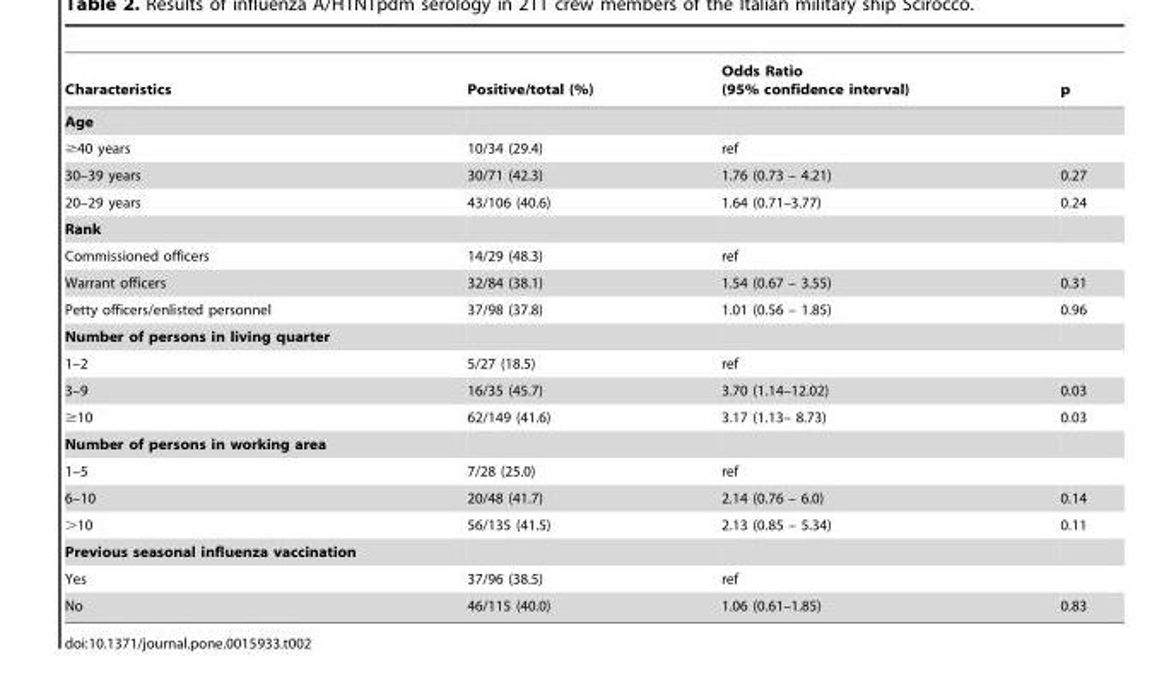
<table><thead><tr><td>Characteristics</td><td>Positive/total (%)</td><td>Odds Ratio (95% confidence interval)</td><td>p</td></tr></thead><tbody><tr><td colspan="4">Age</td></tr><tr><td>≥40 years</td><td>10/34 (29.4)</td><td>ref</td><td></td></tr><tr><td>30–39 years</td><td>30/71 (42.3)</td><td>1.76 (0.73 – 4.21)</td><td>0.27</td></tr><tr><td>20–29 years</td><td>43/106 (40.6)</td><td>1.64 (0.71–3.77)</td><td>0.24</td></tr><tr><td colspan="4">Rank</td></tr><tr><td>Commissioned officers</td><td>14/29 (48.3)</td><td>ref</td><td></td></tr><tr><td>Warrant officers</td><td>32/84 (38.1)</td><td>1.54 (0.67 – 3.55)</td><td>0.31</td></tr><tr><td>Petty officers/enlisted personnel</td><td>37/98 (37.8)</td><td>1.01 (0.56 – 1.85)</td><td>0.96</td></tr><tr><td colspan="4">Number of persons in living quarter</td></tr><tr><td>1–2</td><td>5/27 (18.5)</td><td>ref</td><td></td></tr><tr><td>3–9</td><td>16/35 (45.7)</td><td>3.70 (1.14–12.02)</td><td>0.03</td></tr><tr><td>≥10</td><td>62/149 (41.6)</td><td>3.17 (1.13– 8.73)</td><td>0.03</td></tr><tr><td colspan="4">Number of persons in working area</td></tr><tr><td>1–5</td><td>7/28 (25.0)</td><td>ref</td><td></td></tr><tr><td>6–10</td><td>20/48 (41.7)</td><td>2.14 (0.76 – 6.0)</td><td>0.14</td></tr><tr><td>&gt;10</td><td>56/135 (41.5)</td><td>2.13 (0.85 – 5.34)</td><td>0.11</td></tr><tr><td colspan="4">Previous seasonal influenza vaccination</td></tr><tr><td>Yes</td><td>37/96 (38.5)</td><td>ref</td><td></td></tr><tr><td>No</td><td>46/115 (40.0)</td><td>1.06 (0.61–1.85)</td><td>0.83</td></tr></tbody></table>